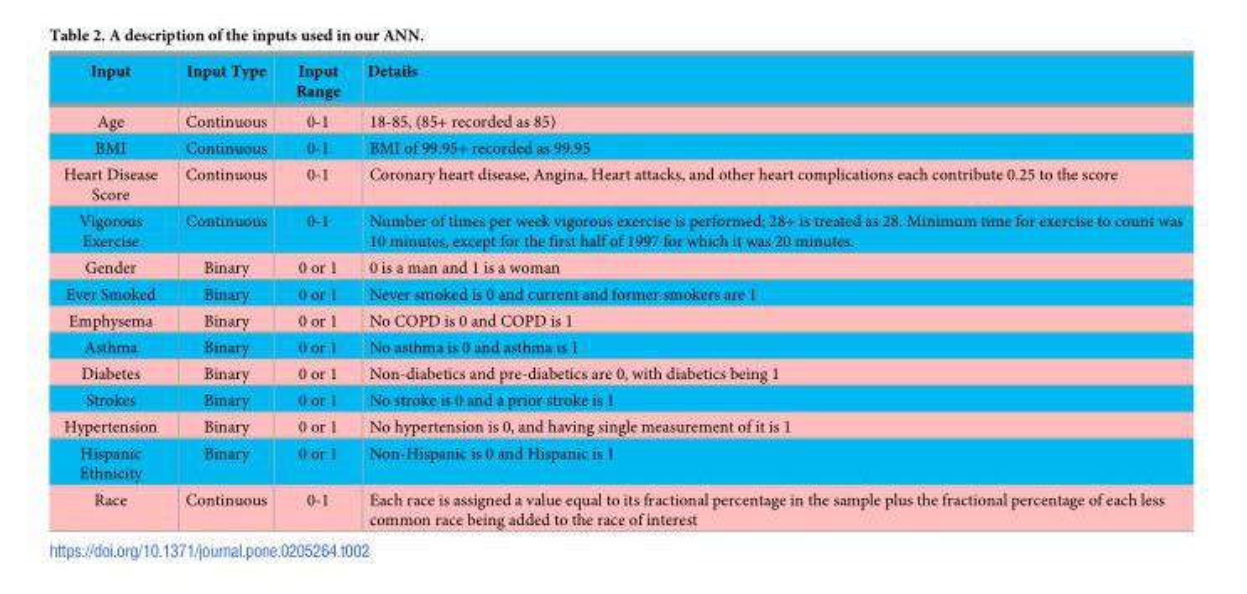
<table><thead><tr><td>Input</td><td>Input Type</td><td>Input Range</td><td>Details</td></tr></thead><tbody><tr><td>Age</td><td>Continuous</td><td>0-1</td><td>18-85, (85+ recorded as 85)</td></tr><tr><td>BMI</td><td>Continuous</td><td>0-1</td><td>BMI of 99.95+ recorded as 99.95</td></tr><tr><td>Heart Disease Score</td><td>Continuous</td><td>0-1</td><td>Coronary heart disease, Angina, Heart attacks, and other heart complications each contribute 0.25 to the score</td></tr><tr><td>Vigorous Exercise</td><td>Continuous</td><td>0-1</td><td>Number of times per week vigorous exercise is performed; 28+ is treated as 28. Minimum time for exercise to count was 10 minutes, except for the first half of 1997 for which it was 20 minutes.</td></tr><tr><td>Gender</td><td>Binary</td><td>0 or 1</td><td>0 is a man and 1 is a woman</td></tr><tr><td>Ever Smoked</td><td>Binary</td><td>0 or 1</td><td>Never smoked is 0 and current and former smokers are 1</td></tr><tr><td>Emphysema</td><td>Binary</td><td>0 or 1</td><td>No COPD is 0 and COPD is 1</td></tr><tr><td>Asthma</td><td>Binary</td><td>0 or 1</td><td>No asthma is 0 and asthma is 1</td></tr><tr><td>Diabetes</td><td>Binary</td><td>0 or 1</td><td>Non-diabetics and pre-diabetics are 0, with diabetics being 1</td></tr><tr><td>Strokes</td><td>Binary</td><td>0 or 1</td><td>No stroke is 0 and a prior stroke is 1</td></tr><tr><td>Hypertension</td><td>Binary</td><td>0 or 1</td><td>No hypertension is 0, and having single measurement of it is 1</td></tr><tr><td>Hispanic Ethnicity</td><td>Binary</td><td>0 or 1</td><td>Non-Hispanic is 0 and Hispanic is 1</td></tr><tr><td>Race</td><td>Continuous</td><td>0-1</td><td>Each race is assigned a value equal to its fractional percentage in the sample plus the fractional percentage of each less common race being added to the race of interest</td></tr></tbody></table>